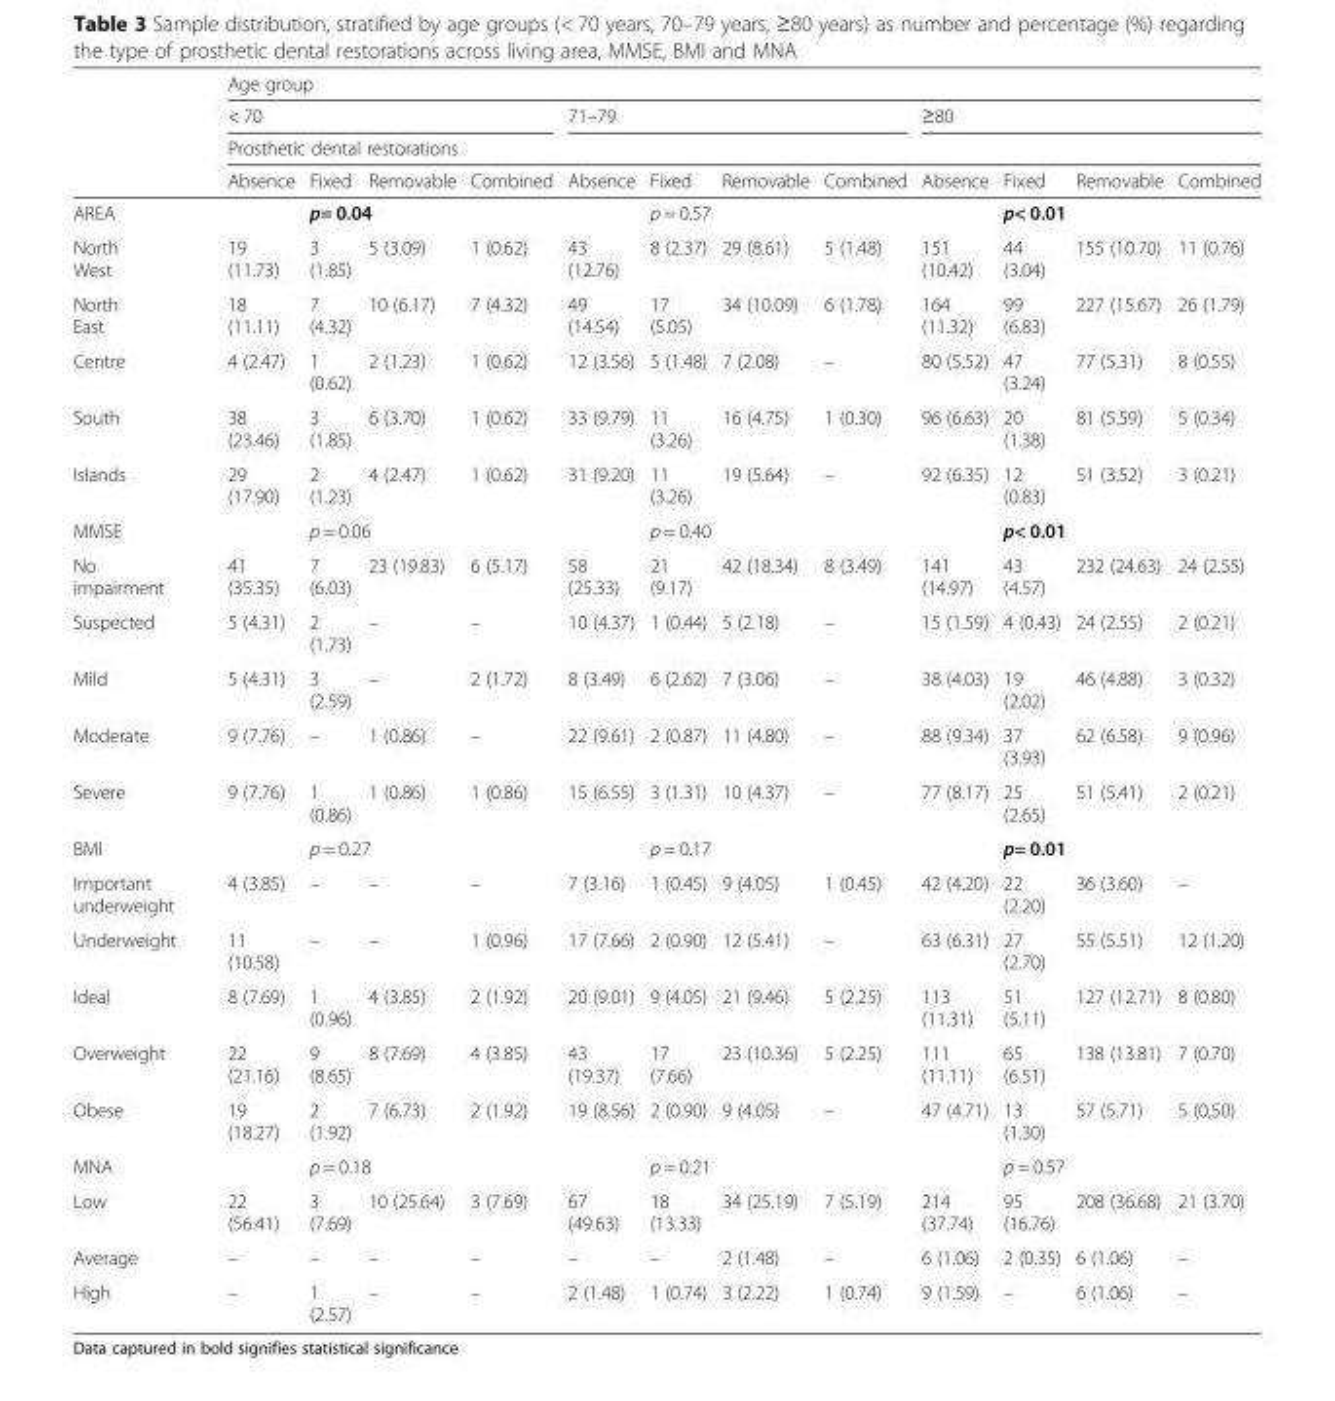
<table><thead><tr><td rowspan="4"></td><td colspan="12">Age group</td></tr><tr><td colspan="4">&lt; 70</td><td colspan="4">71–79</td><td colspan="4">≥80</td></tr><tr><td colspan="12">Prosthetic dental restorations</td></tr><tr><td>Absence</td><td>Fixed</td><td>Removable</td><td>Combined</td><td>Absence</td><td>Fixed</td><td>Removable</td><td>Combined</td><td>Absence</td><td>Fixed</td><td>Removable</td><td>Combined</td></tr></thead><tbody><tr><td>AREA</td><td></td><td colspan="2">p= 0.04</td><td></td><td></td><td colspan="2">p = 0.57</td><td></td><td></td><td colspan="2">p&lt; 0.01</td><td></td></tr><tr><td>North West</td><td>19 (11.73)</td><td>3 (1.85)</td><td>5 (3.09)</td><td>1 (0.62)</td><td>43 (12.76)</td><td>8 (2.37)</td><td>29 (8.61)</td><td>5 (1.48)</td><td>151 (10.42)</td><td>44 (3.04)</td><td>155 (10.70)</td><td>11 (0.76)</td></tr><tr><td>North East</td><td>18 (11.11)</td><td>7 (4.32)</td><td>10 (6.17)</td><td>7 (4.32)</td><td>49 (14.54)</td><td>17 (5.05)</td><td>34 (10.09)</td><td>6 (1.78)</td><td>164 (11.32)</td><td>99 (6.83)</td><td>227 (15.67)</td><td>26 (1.79)</td></tr><tr><td>Centre</td><td>4 (2.47)</td><td>1 (0.62)</td><td>2 (1.23)</td><td>1 (0.62)</td><td>12 (3.56)</td><td>5 (1.48)</td><td>7 (2.08)</td><td>–</td><td>80 (5.52)</td><td>47 (3.24)</td><td>77 (5.31)</td><td>8 (0.55)</td></tr><tr><td>South</td><td>38 (23.46)</td><td>3 (1.85)</td><td>6 (3.70)</td><td>1 (0.62)</td><td>33 (9.79)</td><td>11 (3.26)</td><td>16 (4.75)</td><td>1 (0.30)</td><td>96 (6.63)</td><td>20 (1.38)</td><td>81 (5.59)</td><td>5 (0.34)</td></tr><tr><td>Islands</td><td>29 (17.90)</td><td>2 (1.23)</td><td>4 (2.47)</td><td>1 (0.62)</td><td>31 (9.20)</td><td>11 (3.26)</td><td>19 (5.64)</td><td>–</td><td>92 (6.35)</td><td>12 (0.83)</td><td>51 (3.52)</td><td>3 (0.21)</td></tr><tr><td>MMSE</td><td></td><td colspan="2">p = 0.06</td><td></td><td></td><td colspan="2">p = 0.40</td><td></td><td></td><td colspan="2">p&lt; 0.01</td><td></td></tr><tr><td>No impairment</td><td>41 (35.35)</td><td>7 (6.03)</td><td>23 (19.83)</td><td>6 (5.17)</td><td>58 (25.33)</td><td>21 (9.17)</td><td>42 (18.34)</td><td>8 (3.49)</td><td>141 (14.97)</td><td>43 (4.57)</td><td>232 (24.63)</td><td>24 (2.55)</td></tr><tr><td>Suspected</td><td>5 (4.31)</td><td>2 (1.73)</td><td>–</td><td>–</td><td>10 (4.37)</td><td>1 (0.44)</td><td>5 (2.18)</td><td>–</td><td>15 (1.59)</td><td>4 (0.43)</td><td>24 (2.55)</td><td>2 (0.21)</td></tr><tr><td>Mild</td><td>5 (4.31)</td><td>3 (2.59)</td><td>–</td><td>2 (1.72)</td><td>8 (3.49)</td><td>6 (2.62)</td><td>7 (3.06)</td><td>–</td><td>38 (4.03)</td><td>19 (2.02)</td><td>46 (4.88)</td><td>3 (0.32)</td></tr><tr><td>Moderate</td><td>9 (7.76)</td><td>–</td><td>1 (0.86)</td><td>–</td><td>22 (9.61)</td><td>2 (0.87)</td><td>11 (4.80)</td><td>–</td><td>88 (9.34)</td><td>37 (3.93)</td><td>62 (6.58)</td><td>9 (0.96)</td></tr><tr><td>Severe</td><td>9 (7.76)</td><td>1 (0.86)</td><td>1 (0.86)</td><td>1 (0.86)</td><td>15 (6.55)</td><td>3 (1.31)</td><td>10 (4.37)</td><td>–</td><td>77 (8.17)</td><td>25 (2.65)</td><td>51 (5.41)</td><td>2 (0.21)</td></tr><tr><td>BMI</td><td></td><td colspan="2">p = 0.27</td><td></td><td></td><td colspan="2">p = 0.17</td><td></td><td></td><td colspan="2">p= 0.01</td><td></td></tr><tr><td>Important underweight</td><td>4 (3.85)</td><td>–</td><td>–</td><td>–</td><td>7 (3.16)</td><td>1 (0.45)</td><td>9 (4.05)</td><td>1 (0.45)</td><td>42 (4.20)</td><td>22 (2.20)</td><td>36 (3.60)</td><td>–</td></tr><tr><td>Underweight</td><td>11 (10.58)</td><td>–</td><td>–</td><td>1 (0.96)</td><td>17 (7.66)</td><td>2 (0.90)</td><td>12 (5.41)</td><td>–</td><td>63 (6.31)</td><td>27 (2.70)</td><td>55 (5.51)</td><td>12 (1.20)</td></tr><tr><td>Ideal</td><td>8 (7.69)</td><td>1 (0.96)</td><td>4 (3.85)</td><td>2 (1.92)</td><td>20 (9.01)</td><td>9 (4.05)</td><td>21 (9.46)</td><td>5 (2.25)</td><td>113 (11.31)</td><td>51 (5.11)</td><td>127 (12.71)</td><td>8 (0.80)</td></tr><tr><td>Overweight</td><td>22 (21.16)</td><td>9 (8.65)</td><td>8 (7.69)</td><td>4 (3.85)</td><td>43 (19.37)</td><td>17 (7.66)</td><td>23 (10.36)</td><td>5 (2.25)</td><td>111 (11.11)</td><td>65 (6.51)</td><td>138 (13.81)</td><td>7 (0.70)</td></tr><tr><td>Obese</td><td>19 (18.27)</td><td>2 (1.92)</td><td>7 (6.73)</td><td>2 (1.92)</td><td>19 (8.56)</td><td>2 (0.90)</td><td>9 (4.05)</td><td>–</td><td>47 (4.71)</td><td>13 (1.30)</td><td>57 (5.71)</td><td>5 (0,50)</td></tr><tr><td>MNA</td><td></td><td colspan="2">p = 0.18</td><td></td><td></td><td colspan="2">p = 0.21</td><td></td><td></td><td colspan="2">p = 0.57</td><td></td></tr><tr><td>Low</td><td>22 (56.41)</td><td>3 (7.69)</td><td>10 (25.64)</td><td>3 (7.69)</td><td>67 (49.63)</td><td>18 (13.33)</td><td>34 (25.19)</td><td>7 (5.19)</td><td>214 (37.74)</td><td>95 (16.76)</td><td>208 (36.68)</td><td>21 (3.70)</td></tr><tr><td>Average</td><td>–</td><td>–</td><td>–</td><td>–</td><td>–</td><td>–</td><td>2 (1.48)</td><td>–</td><td>6 (1.06)</td><td>2 (0.35)</td><td>6 (1.06)</td><td>–</td></tr><tr><td>High</td><td>–</td><td>1 (2.57)</td><td>–</td><td>–</td><td>2 (1.48)</td><td>1 (0.74)</td><td>3 (2.22)</td><td>1 (0.74)</td><td>9 (1.59)</td><td>–</td><td>6 (1.06)</td><td>–</td></tr></tbody></table>